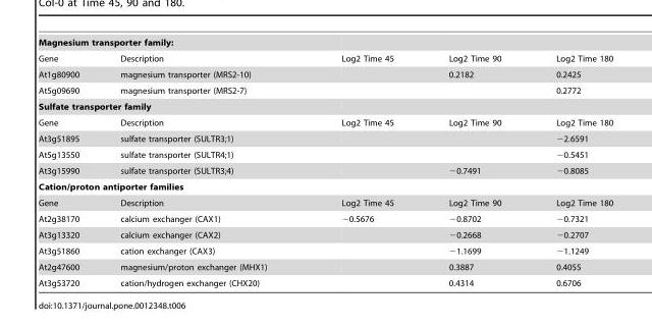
<table><tbody><tr><td colspan="5">Magnesium transporter family:</td></tr><tr><td>Gene</td><td>Description</td><td>Log2 Time 45</td><td>Log2 Time 90</td><td>Log2 Time 180</td></tr><tr><td>At1g80900</td><td>magnesium transporter (MRS2-10)</td><td></td><td>0.2182</td><td>0.2425</td></tr><tr><td>At5g09690</td><td>magnesium transporter (MRS2-7)</td><td></td><td></td><td>0.2772</td></tr><tr><td colspan="5">Sulfate transporter family</td></tr><tr><td>Gene</td><td>Description</td><td>Log2 Time 45</td><td>Log2 Time 90</td><td>Log2 Time 180</td></tr><tr><td>At3g51895</td><td>sulfate transporter (SULTR3;1)</td><td></td><td></td><td>−2.6591</td></tr><tr><td>At5g13550</td><td>sulfate transporter (SULTR4;1)</td><td></td><td></td><td>−0.5451</td></tr><tr><td>At3g15990</td><td>sulfate transporter (SULTR3;4)</td><td></td><td>−0.7491</td><td>−0.8085</td></tr><tr><td colspan="5">Cation/proton antiporter families</td></tr><tr><td>Gene</td><td>Description</td><td>Log2 Time 45</td><td>Log2 Time 90</td><td>Log2 Time 180</td></tr><tr><td>At2g38170</td><td>calcium exchanger (CAX1)</td><td>−0.5676</td><td>−0.8702</td><td>−0.7321</td></tr><tr><td>At3g13320</td><td>calcium exchanger (CAX2)</td><td></td><td>−0.2668</td><td>−0.2707</td></tr><tr><td>At3g51860</td><td>cation exchanger (CAX3)</td><td></td><td>−1.1699</td><td>−1.1249</td></tr><tr><td>At2g47600</td><td>magnesium/proton exchanger (MHX1)</td><td></td><td>0.3887</td><td>0.4055</td></tr><tr><td>At3g53720</td><td>cation/hydrogen exchanger (CHX20)</td><td></td><td>0.4314</td><td>0.6706</td></tr></tbody></table>